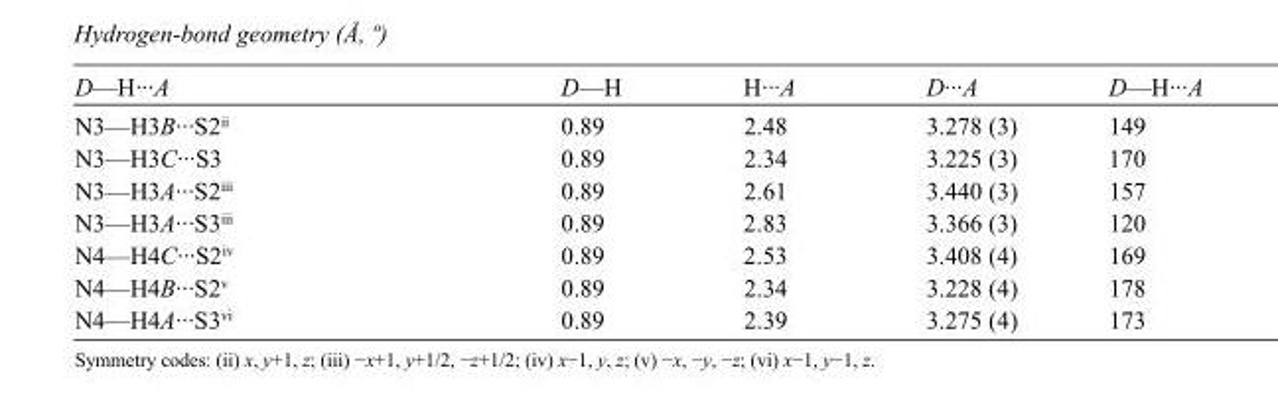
<table><tbody><tr><td>D—H···A</td><td>D—H</td><td>H···A</td><td>D···A</td><td>D—H···A</td></tr><tr><td>N3—H3B···S2<sup>ii</sup></td><td>0.89</td><td>2.48</td><td>3.278 (3)</td><td>149</td></tr><tr><td>N3—H3C···S3</td><td>0.89</td><td>2.34</td><td>3.225 (3)</td><td>170</td></tr><tr><td>N3—H3A···S2<sup>iii</sup></td><td>0.89</td><td>2.61</td><td>3.440 (3)</td><td>157</td></tr><tr><td>N3—H3A···S3<sup>iii</sup></td><td>0.89</td><td>2.83</td><td>3.366 (3)</td><td>120</td></tr><tr><td>N4—H4C···S2<sup>iv</sup></td><td>0.89</td><td>2.53</td><td>3.408 (4)</td><td>169</td></tr><tr><td>N4—H4B···S2<sup>v</sup></td><td>0.89</td><td>2.34</td><td>3.228 (4)</td><td>178</td></tr><tr><td>N4—H4A···S3<sup>vi</sup></td><td>0.89</td><td>2.39</td><td>3.275 (4)</td><td>173</td></tr></tbody></table>